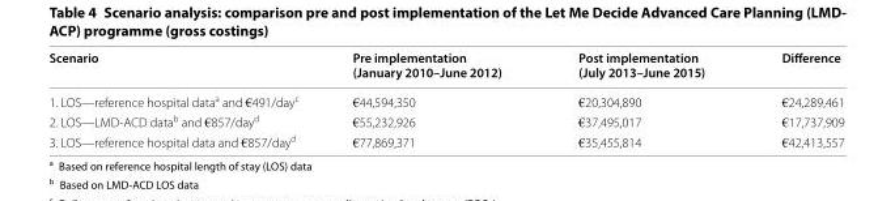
<table><thead><tr><td>Scenario</td><td>Pre implementation (January 2010–June 2012)</td><td>Post implementation (July 2013–June 2015)</td><td>Difference</td></tr></thead><tbody><tr><td>1. LOS—reference hospital data<sup>a</sup> and €491/day<sup>c</sup></td><td>€44,594,350</td><td>€20,304,890</td><td>€24,289,461</td></tr><tr><td>2. LOS—LMD-ACD data<sup>b</sup> and €857/day<sup>d</sup></td><td>€55,232,926</td><td>€37,495,017</td><td>€17,737,909</td></tr><tr><td>3. LOS—reference hospital data and €857/day<sup>d</sup></td><td>€77,869,371</td><td>€35,455,814</td><td>€42,413,557</td></tr></tbody></table>